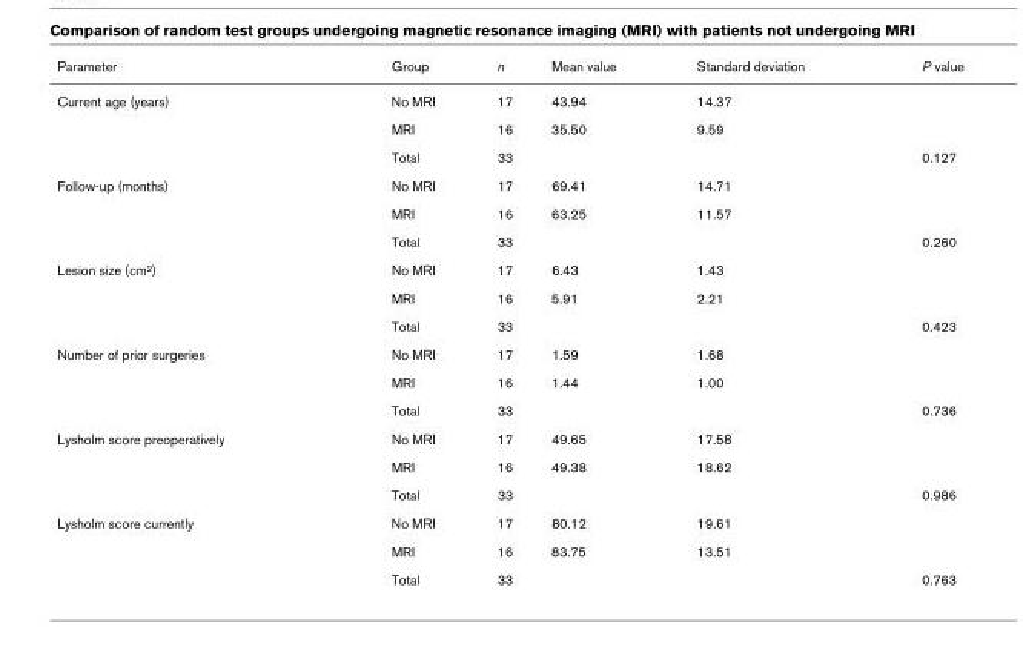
<table><thead><tr><td>Parameter</td><td>Group</td><td>n</td><td>Mean value</td><td>Standard deviation</td><td>P value</td></tr></thead><tbody><tr><td rowspan="3">Current age (years)</td><td>No MRI</td><td>17</td><td>43.94</td><td>14.37</td><td></td></tr><tr><td>MRI</td><td>16</td><td>35.50</td><td>9.59</td><td></td></tr><tr><td>Total</td><td>33</td><td></td><td></td><td>0.127</td></tr><tr><td rowspan="3">Follow-up (months)</td><td>No MRI</td><td>17</td><td>69.41</td><td>14.71</td><td></td></tr><tr><td>MRI</td><td>16</td><td>63.25</td><td>11.57</td><td></td></tr><tr><td>Total</td><td>33</td><td></td><td></td><td>0.260</td></tr><tr><td rowspan="3">Lesion size (cm<sup>2</sup>)</td><td>No MRI</td><td>17</td><td>6.43</td><td>1.43</td><td></td></tr><tr><td>MRI</td><td>16</td><td>5.91</td><td>2.21</td><td></td></tr><tr><td>Total</td><td>33</td><td></td><td></td><td>0.423</td></tr><tr><td rowspan="3">Number of prior surgeries</td><td>No MRI</td><td>17</td><td>1.59</td><td>1.68</td><td></td></tr><tr><td>MRI</td><td>16</td><td>1.44</td><td>1.00</td><td></td></tr><tr><td>Total</td><td>33</td><td></td><td></td><td>0.736</td></tr><tr><td rowspan="3">Lysholm score preoperatively</td><td>No MRI</td><td>17</td><td>49.65</td><td>17.58</td><td></td></tr><tr><td>MRI</td><td>16</td><td>49.38</td><td>18.62</td><td></td></tr><tr><td>Total</td><td>33</td><td></td><td></td><td>0.986</td></tr><tr><td rowspan="3">Lysholm score currently</td><td>No MRI</td><td>17</td><td>80.12</td><td>19.61</td><td></td></tr><tr><td>MRI</td><td>16</td><td>83.75</td><td>13.51</td><td></td></tr><tr><td>Total</td><td>33</td><td></td><td></td><td>0.763</td></tr></tbody></table>